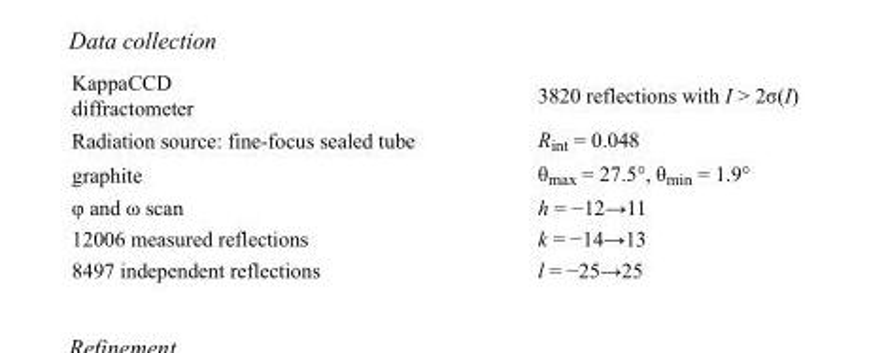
<table><tbody><tr><td>KappaCCD diffractometer</td><td>3820 reflections with I &gt; 2σ(I)</td></tr><tr><td>Radiation source: fine-focus sealed tube</td><td>R<sub>int</sub> = 0.048</td></tr><tr><td>graphite</td><td>θ<sub>max</sub> = 27.5°, θ<sub>min</sub> = 1.9°</td></tr><tr><td>φ and ω scan</td><td>h = −12→11</td></tr><tr><td>12006 measured reflections</td><td>k = −14→13</td></tr><tr><td>8497 independent reflections</td><td>l = −25→25</td></tr></tbody></table>